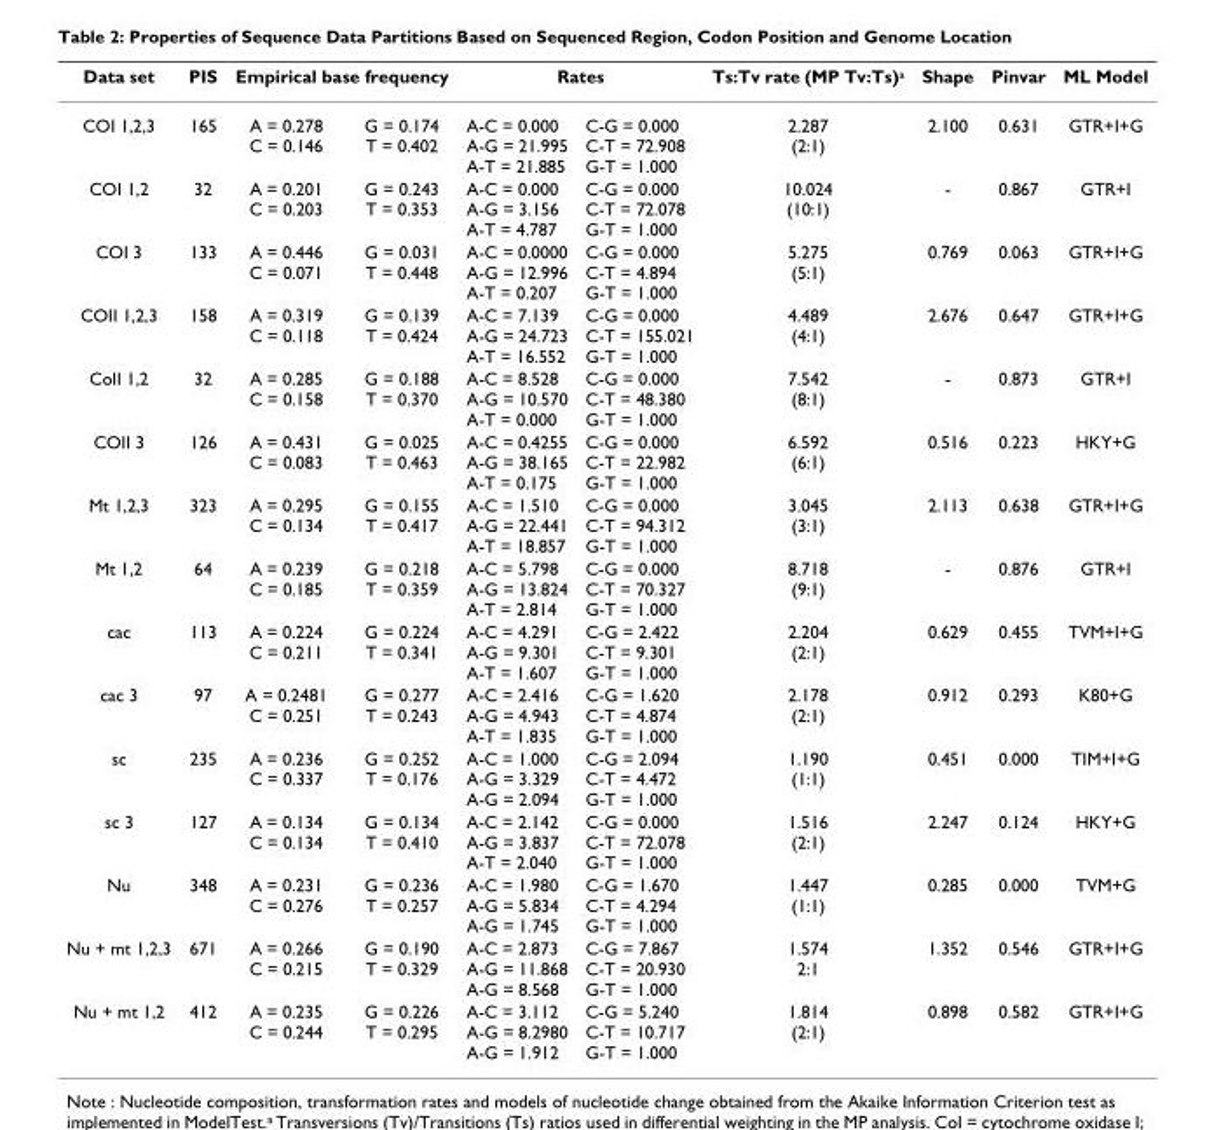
<table><thead><tr><td rowspan="2">Data set COI 1,2,3</td><td rowspan="2">PIS 165</td><td colspan="2">Empirical base frequency</td><td colspan="2">Rates</td><td rowspan="2">Ts:Tv rate (MP Tv:Ts)<sup>a</sup> 2.287 (2:1)</td><td rowspan="2">Shape 2.100</td><td rowspan="2">Pinvar 0.631</td><td rowspan="2">ML Model GTR+I+G</td></tr><tr><td>A = 0.278 C = 0.146</td><td>G = 0.174 T = 0.402</td><td>A-C = 0.000 A-G = 21.995 A-T = 21.885</td><td>C-G = 0.000 C-T = 72.908 G-T = 1.000</td></tr></thead><tbody><tr><td>COI 1,2</td><td>32</td><td>A = 0.201 C = 0.203</td><td>G = 0.243 T = 0.353</td><td>A-C = 0.000 A-G = 3.156 A-T = 4.787</td><td>C-G = 0.000 C-T = 72.078 G-T = 1.000</td><td>10.024 (10:1)</td><td>-</td><td>0.867</td><td>GTR+I</td></tr><tr><td>COI 3</td><td>133</td><td>A = 0.446 C = 0.071</td><td>G = 0.031 T = 0.448</td><td>A-C = 0.0000 A-G = 12.996 A-T = 0.207</td><td>C-G = 0.000 C-T = 4.894 G-T = 1.000</td><td>5.275 (5:1)</td><td>0.769</td><td>0.063</td><td>GTR+I+G</td></tr><tr><td>COII 1,2,3</td><td>158</td><td>A = 0.319 C = 0.118</td><td>G = 0.139 T = 0.424</td><td>A-C = 7.139 A-G = 24.723 A-T = 16.552</td><td>C-G = 0.000 C-T = 155.021 G-T = 1.000</td><td>4.489 (4:1)</td><td>2.676</td><td>0.647</td><td>GTR+I+G</td></tr><tr><td>CoII 1,2</td><td>32</td><td>A = 0.285 C = 0.158</td><td>G = 0.188 T = 0.370</td><td>A-C = 8.528 A-G = 10.570 A-T = 0.000</td><td>C-G = 0.000 C-T = 48.380 G-T = 1.000</td><td>7.542 (8:1)</td><td>-</td><td>0.873</td><td>GTR+I</td></tr><tr><td>COII 3</td><td>126</td><td>A = 0.431 C = 0.083</td><td>G = 0.025 T = 0.463</td><td>A-C = 0.4255 A-G = 38.165 A-T = 0.175</td><td>C-G = 0.000 C-T = 22.982 G-T = 1.000</td><td>6.592 (6:1)</td><td>0.516</td><td>0.223</td><td>HKY+G</td></tr><tr><td>Mt 1,2,3</td><td>323</td><td>A = 0.295 C = 0.134</td><td>G = 0.155 T = 0.417</td><td>A-C = 1.510 A-G = 22.441 A-T = 18.857</td><td>C-G = 0.000 C-T = 94.312 G-T = 1.000</td><td>3.045 (3:1)</td><td>2.113</td><td>0.638</td><td>GTR+I+G</td></tr><tr><td>Mt 1,2</td><td>64</td><td>A = 0.239 C = 0.185</td><td>G = 0.218 T = 0.359</td><td>A-C = 5.798 A-G = 13.824 A-T = 2.814</td><td>C-G = 0.000 C-T = 70.327 G-T = 1.000</td><td>8.718 (9:1)</td><td>-</td><td>0.876</td><td>GTR+I</td></tr><tr><td>cac</td><td>113</td><td>A = 0.224 C = 0.211</td><td>G = 0.224 T = 0.341</td><td>A-C = 4.291 A-G = 9.301 A-T = 1.607</td><td>C-G = 2.422 C-T = 9.301 G-T = 1.000</td><td>2.204 (2:1)</td><td>0.629</td><td>0.455</td><td>TVM+I+G</td></tr><tr><td>cac 3</td><td>97</td><td>A = 0.2481 C = 0.251</td><td>G = 0.277 T = 0.243</td><td>A-C = 2.416 A-G = 4.943 A-T = 1.835</td><td>C-G = 1.620 C-T = 4.874 G-T = 1.000</td><td>2.178 (2:1)</td><td>0.912</td><td>0.293</td><td>K80+G</td></tr><tr><td>sc</td><td>235</td><td>A = 0.236 C = 0.337</td><td>G = 0.252 T = 0.176</td><td>A-C = 1.000 A-G = 3.329 A-G = 2.094</td><td>C-G = 2.094 C-T = 4.472 G-T = 1.000</td><td>1.190 (1:1)</td><td>0.451</td><td>0.000</td><td>TIM+I+G</td></tr><tr><td>sc 3</td><td>127</td><td>A = 0.134 C = 0.134</td><td>G = 0.134 T = 0.410</td><td>A-C = 2.142 A-G = 3.837 A-T = 2.040</td><td>C-G = 0.000 C-T = 72.078 G-T = 1.000</td><td>1.516 (2:1)</td><td>2.247</td><td>0.124</td><td>HKY+G</td></tr><tr><td>Nu</td><td>348</td><td>A = 0.231 C = 0.276</td><td>G = 0.236 T = 0.257</td><td>A-C = 1.980 A-G = 5.834 A-G = 1.745</td><td>C-G = 1.670 C-T = 4.294 G-T = 1.000</td><td>1.447 (1:1)</td><td>0.285</td><td>0.000</td><td>TVM+G</td></tr><tr><td>Nu + mt 1,2,3</td><td>671</td><td>A = 0.266 C = 0.215</td><td>G = 0.190 T = 0.329</td><td>A-C = 2.873 A-G = 11.868 A-G = 8.568</td><td>C-G = 7.867 C-T = 20.930 G-T = 1.000</td><td>1.574 2:1</td><td>1.352</td><td>0.546</td><td>GTR+I+G</td></tr><tr><td>Nu + mt 1,2</td><td>412</td><td>A = 0.235 C = 0.244</td><td>G = 0.226 T = 0.295</td><td>A-C = 3.112 A-G = 8.2980 A-G = 1.912</td><td>C-G = 5.240 C-T = 10.717 G-T = 1.000</td><td>1.814 (2:1)</td><td>0.898</td><td>0.582</td><td>GTR+I+G</td></tr></tbody></table>